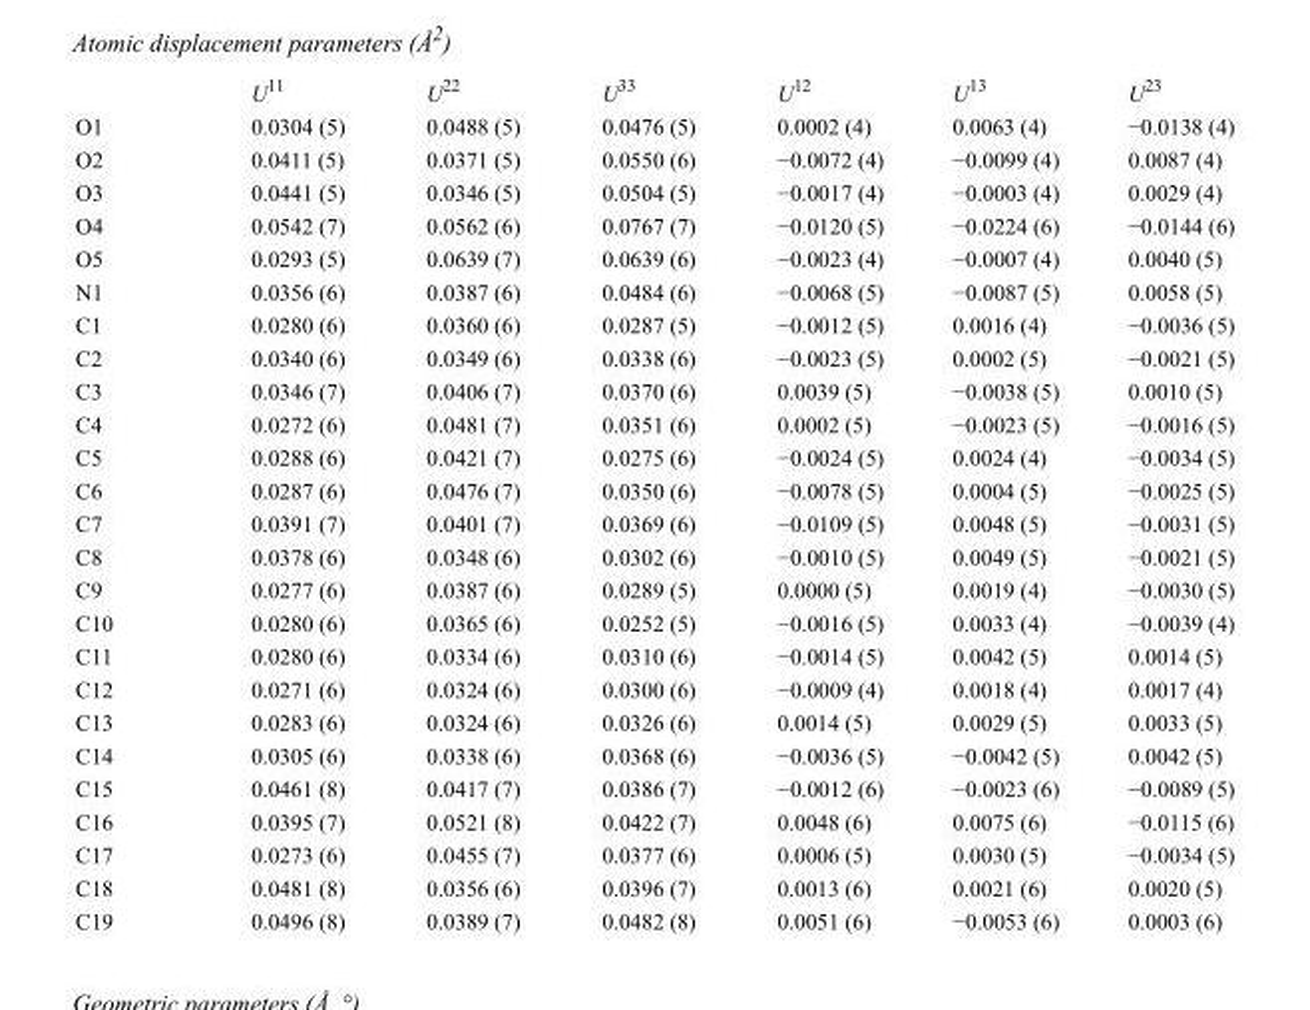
<table><thead><tr><td></td><td>U<sup>11</sup></td><td>U<sup>22</sup></td><td>U<sup>33</sup></td><td>U<sup>12</sup></td><td>U<sup>13</sup></td><td>U<sup>23</sup></td></tr></thead><tbody><tr><td>O1</td><td>0.0304 (5)</td><td>0.0488 (5)</td><td>0.0476 (5)</td><td>0.0002 (4)</td><td>0.0063 (4)</td><td>−0.0138 (4)</td></tr><tr><td>O2</td><td>0.0411 (5)</td><td>0.0371 (5)</td><td>0.0550 (6)</td><td>−0.0072 (4)</td><td>−0.0099 (4)</td><td>0.0087 (4)</td></tr><tr><td>O3</td><td>0.0441 (5)</td><td>0.0346 (5)</td><td>0.0504 (5)</td><td>−0.0017 (4)</td><td>−0.0003 (4)</td><td>0.0029 (4)</td></tr><tr><td>O4</td><td>0.0542 (7)</td><td>0.0562 (6)</td><td>0.0767 (7)</td><td>−0.0120 (5)</td><td>−0.0224 (6)</td><td>−0.0144 (6)</td></tr><tr><td>O5</td><td>0.0293 (5)</td><td>0.0639 (7)</td><td>0.0639 (6)</td><td>−0.0023 (4)</td><td>−0.0007 (4)</td><td>0.0040 (5)</td></tr><tr><td>N1</td><td>0.0356 (6)</td><td>0.0387 (6)</td><td>0.0484 (6)</td><td>−0.0068 (5)</td><td>−0.0087 (5)</td><td>0.0058 (5)</td></tr><tr><td>C1</td><td>0.0280 (6)</td><td>0.0360 (6)</td><td>0.0287 (5)</td><td>−0.0012 (5)</td><td>0.0016 (4)</td><td>−0.0036 (5)</td></tr><tr><td>C2</td><td>0.0340 (6)</td><td>0.0349 (6)</td><td>0.0338 (6)</td><td>−0.0023 (5)</td><td>0.0002 (5)</td><td>−0.0021 (5)</td></tr><tr><td>C3</td><td>0.0346 (7)</td><td>0.0406 (7)</td><td>0.0370 (6)</td><td>0.0039 (5)</td><td>−0.0038 (5)</td><td>0.0010 (5)</td></tr><tr><td>C4</td><td>0.0272 (6)</td><td>0.0481 (7)</td><td>0.0351 (6)</td><td>0.0002 (5)</td><td>−0.0023 (5)</td><td>−0.0016 (5)</td></tr><tr><td>C5</td><td>0.0288 (6)</td><td>0.0421 (7)</td><td>0.0275 (6)</td><td>−0.0024 (5)</td><td>0.0024 (4)</td><td>−0.0034 (5)</td></tr><tr><td>C6</td><td>0.0287 (6)</td><td>0.0476 (7)</td><td>0.0350 (6)</td><td>−0.0078 (5)</td><td>0.0004 (5)</td><td>−0.0025 (5)</td></tr><tr><td>C7</td><td>0.0391 (7)</td><td>0.0401 (7)</td><td>0.0369 (6)</td><td>−0.0109 (5)</td><td>0.0048 (5)</td><td>−0.0031 (5)</td></tr><tr><td>C8</td><td>0.0378 (6)</td><td>0.0348 (6)</td><td>0.0302 (6)</td><td>−0.0010 (5)</td><td>0.0049 (5)</td><td>−0.0021 (5)</td></tr><tr><td>C9</td><td>0.0277 (6)</td><td>0.0387 (6)</td><td>0.0289 (5)</td><td>0.0000 (5)</td><td>0.0019 (4)</td><td>−0.0030 (5)</td></tr><tr><td>C10</td><td>0.0280 (6)</td><td>0.0365 (6)</td><td>0.0252 (5)</td><td>−0.0016 (5)</td><td>0.0033 (4)</td><td>−0.0039 (4)</td></tr><tr><td>C11</td><td>0.0280 (6)</td><td>0.0334 (6)</td><td>0.0310 (6)</td><td>−0.0014 (5)</td><td>0.0042 (5)</td><td>0.0014 (5)</td></tr><tr><td>C12</td><td>0.0271 (6)</td><td>0.0324 (6)</td><td>0.0300 (6)</td><td>−0.0009 (4)</td><td>0.0018 (4)</td><td>0.0017 (4)</td></tr><tr><td>C13</td><td>0.0283 (6)</td><td>0.0324 (6)</td><td>0.0326 (6)</td><td>0.0014 (5)</td><td>0.0029 (5)</td><td>0.0033 (5)</td></tr><tr><td>C14</td><td>0.0305 (6)</td><td>0.0338 (6)</td><td>0.0368 (6)</td><td>−0.0036 (5)</td><td>−0.0042 (5)</td><td>0.0042 (5)</td></tr><tr><td>C15</td><td>0.0461 (8)</td><td>0.0417 (7)</td><td>0.0386 (7)</td><td>−0.0012 (6)</td><td>−0.0023 (6)</td><td>−0.0089 (5)</td></tr><tr><td>C16</td><td>0.0395 (7)</td><td>0.0521 (8)</td><td>0.0422 (7)</td><td>0.0048 (6)</td><td>0.0075 (6)</td><td>−0.0115 (6)</td></tr><tr><td>C17</td><td>0.0273 (6)</td><td>0.0455 (7)</td><td>0.0377 (6)</td><td>0.0006 (5)</td><td>0.0030 (5)</td><td>−0.0034 (5)</td></tr><tr><td>C18</td><td>0.0481 (8)</td><td>0.0356 (6)</td><td>0.0396 (7)</td><td>0.0013 (6)</td><td>0.0021 (6)</td><td>0.0020 (5)</td></tr><tr><td>C19</td><td>0.0496 (8)</td><td>0.0389 (7)</td><td>0.0482 (8)</td><td>0.0051 (6)</td><td>−0.0053 (6)</td><td>0.0003 (6)</td></tr></tbody></table>